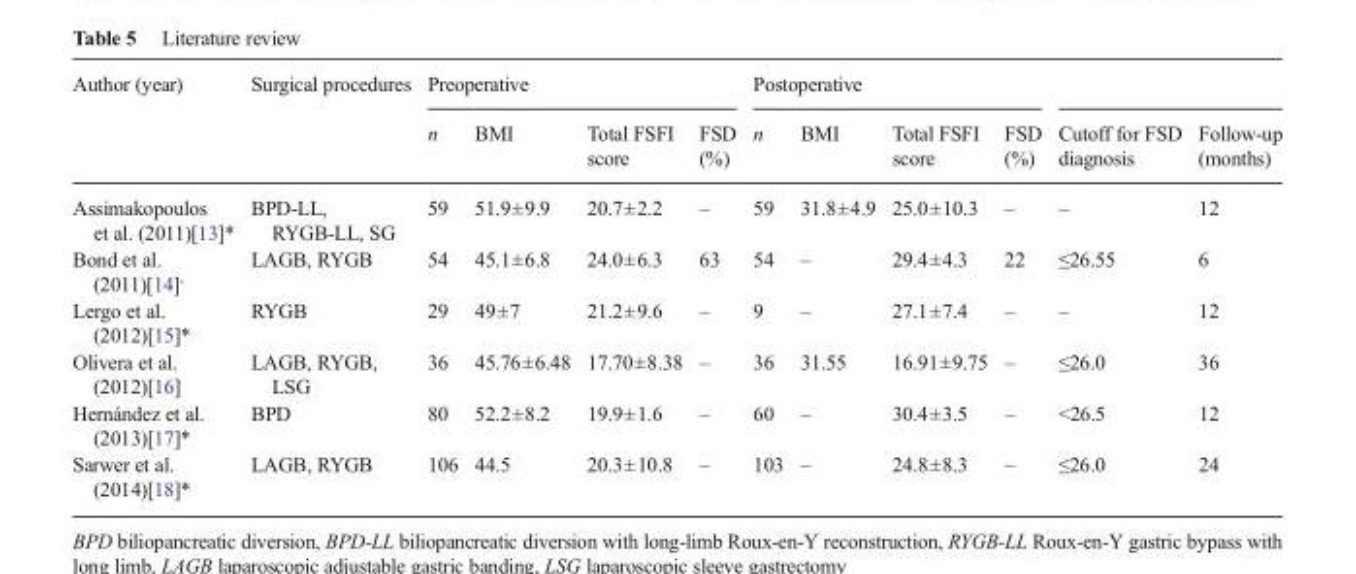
<table><thead><tr><td rowspan="2">Author (year)</td><td rowspan="2">Surgical procedures</td><td colspan="4">Preoperative</td><td colspan="4">Postoperative</td><td rowspan="2">Cutoff for FSD diagnosis</td><td rowspan="2">Follow-up (months)</td></tr><tr><td>n</td><td>BMI</td><td>Total FSFI score</td><td>FSD (%)</td><td>n</td><td>BMI</td><td>Total FSFI score</td><td>FSD (%)</td></tr></thead><tbody><tr><td>Assimakopoulos et al. (2011)[13]*</td><td>BPD-LL, RYGB-LL, SG</td><td>59</td><td>51.9±9.9</td><td>20.7±2.2</td><td>–</td><td>59</td><td>31.8±4.9</td><td>25.0±10.3</td><td>–</td><td>–</td><td>12</td></tr><tr><td>Bond et al. (2011)[14]<sup>,</sup></td><td>LAGB, RYGB</td><td>54</td><td>45.1±6.8</td><td>24.0±6.3</td><td>63</td><td>54</td><td>–</td><td>29.4±4.3</td><td>22</td><td>≤26.55</td><td>6</td></tr><tr><td>Lergo et al. (2012)[15]*</td><td>RYGB</td><td>29</td><td>49±7</td><td>21.2±9.6</td><td>–</td><td>9</td><td>–</td><td>27.1±7.4</td><td>–</td><td>–</td><td>12</td></tr><tr><td>Olivera et al. (2012)[16]</td><td>LAGB, RYGB, LSG</td><td>36</td><td>45.76±6.48</td><td>17.70±8.38</td><td>–</td><td>36</td><td>31.55</td><td>16.91±9.75</td><td>–</td><td>≤26.0</td><td>36</td></tr><tr><td>Hernández et al. (2013)[17]*</td><td>BPD</td><td>80</td><td>52.2±8.2</td><td>19.9±1.6</td><td>–</td><td>60</td><td>–</td><td>30.4±3.5</td><td>–</td><td>&lt;26.5</td><td>12</td></tr><tr><td>Sarwer et al. (2014)[18]*</td><td>LAGB, RYGB</td><td>106</td><td>44.5</td><td>20.3±10.8</td><td>–</td><td>103</td><td>–</td><td>24.8±8.3</td><td>–</td><td>≤26.0</td><td>24</td></tr></tbody></table>